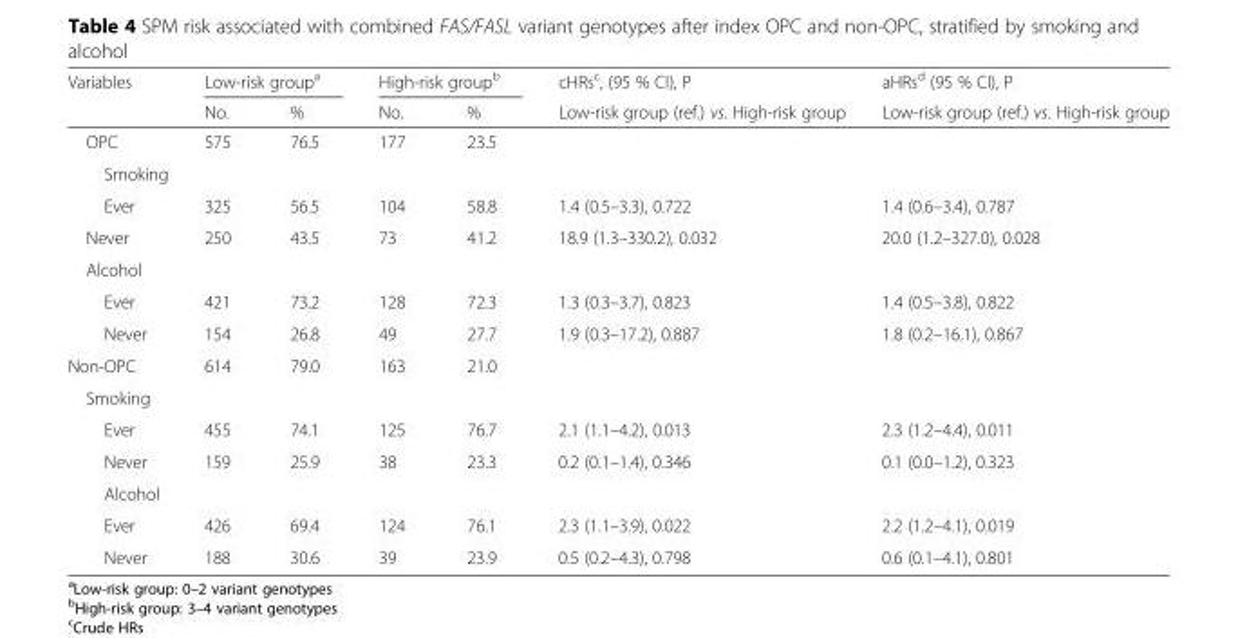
<table><thead><tr><td rowspan="2">Variables</td><td colspan="2">Low-risk group<sup>a</sup></td><td colspan="2">High-risk group<sup>b</sup></td><td rowspan="2">cHRs<sup>c</sup>, (95 % CI), P Low-risk group (ref.) vs. High-risk group</td><td rowspan="2">aHRs<sup>d</sup> (95 % CI), P Low-risk group (ref.) vs. High-risk group</td></tr><tr><td>No.</td><td>%</td><td>No.</td><td>%</td></tr></thead><tbody><tr><td>OPC</td><td>575</td><td>76.5</td><td>177</td><td>23.5</td><td></td><td></td></tr><tr><td colspan="7">Smoking</td></tr><tr><td>Ever</td><td>325</td><td>56.5</td><td>104</td><td>58.8</td><td>1.4 (0.5–3.3), 0.722</td><td>1.4 (0.6–3.4), 0.787</td></tr><tr><td>Never</td><td>250</td><td>43.5</td><td>73</td><td>41.2</td><td>18.9 (1.3–330.2), 0.032</td><td>20.0 (1.2–327.0), 0.028</td></tr><tr><td colspan="7">Alcohol</td></tr><tr><td>Ever</td><td>421</td><td>73.2</td><td>128</td><td>72.3</td><td>1.3 (0.3–3.7), 0.823</td><td>1.4 (0.5–3.8), 0.822</td></tr><tr><td>Never</td><td>154</td><td>26.8</td><td>49</td><td>27.7</td><td>1.9 (0.3–17.2), 0.887</td><td>1.8 (0.2–16.1), 0.867</td></tr><tr><td>Non-OPC</td><td>614</td><td>79.0</td><td>163</td><td>21.0</td><td></td><td></td></tr><tr><td colspan="7">Smoking</td></tr><tr><td>Ever</td><td>455</td><td>74.1</td><td>125</td><td>76.7</td><td>2.1 (1.1–4.2), 0.013</td><td>2.3 (1.2–4.4), 0.011</td></tr><tr><td>Never</td><td>159</td><td>25.9</td><td>38</td><td>23.3</td><td>0.2 (0.1–1.4), 0.346</td><td>0.1 (0.0–1.2), 0.323</td></tr><tr><td colspan="7">Alcohol</td></tr><tr><td>Ever</td><td>426</td><td>69.4</td><td>124</td><td>76.1</td><td>2.3 (1.1–3.9), 0.022</td><td>2.2 (1.2–4.1), 0.019</td></tr><tr><td>Never</td><td>188</td><td>30.6</td><td>39</td><td>23.9</td><td>0.5 (0.2–4.3), 0.798</td><td>0.6 (0.1–4.1), 0.801</td></tr></tbody></table>